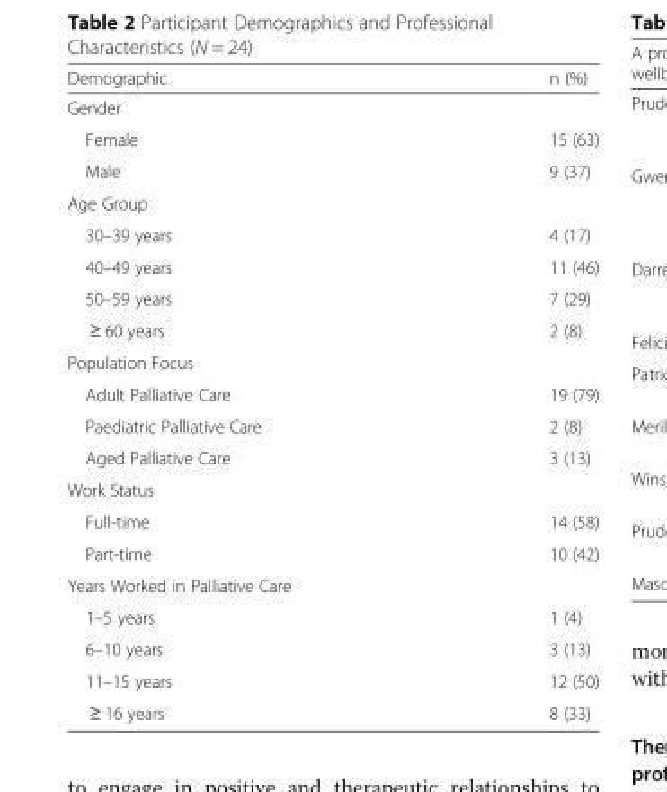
<table><thead><tr><td>Demographic</td><td>n (%)</td></tr></thead><tbody><tr><td colspan="2">Gender</td></tr><tr><td>Female</td><td>15 (63)</td></tr><tr><td>Male</td><td>9 (37)</td></tr><tr><td colspan="2">Age Group</td></tr><tr><td>30–39 years</td><td>4 (17)</td></tr><tr><td>40–49 years</td><td>11 (46)</td></tr><tr><td>50–59 years</td><td>7 (29)</td></tr><tr><td>≥ 60 years</td><td>2 (8)</td></tr><tr><td colspan="2">Population Focus</td></tr><tr><td>Adult Palliative Care</td><td>19 (79)</td></tr><tr><td>Paediatric Palliative Care</td><td>2 (8)</td></tr><tr><td>Aged Palliative Care</td><td>3 (13)</td></tr><tr><td colspan="2">Work Status</td></tr><tr><td>Full-time</td><td>14 (58)</td></tr><tr><td>Part-time</td><td>10 (42)</td></tr><tr><td colspan="2">Years Worked in Palliative Care</td></tr><tr><td>1–5 years</td><td>1 (4)</td></tr><tr><td>6–10 years</td><td>3 (13)</td></tr><tr><td>11–15 years</td><td>12 (50)</td></tr><tr><td>≥ 16 years</td><td>8 (33)</td></tr></tbody></table>